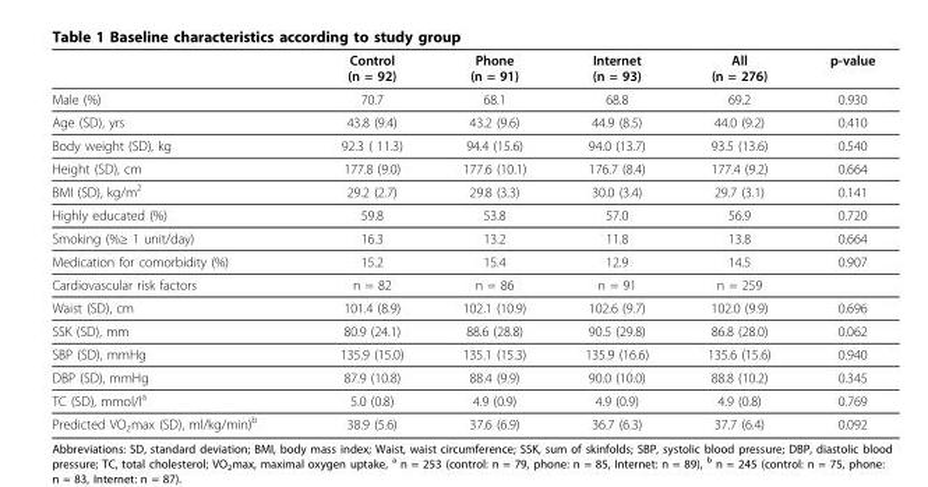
<table><thead><tr><td></td><td>Control (n = 92)</td><td>Phone (n = 91)</td><td>Internet (n = 93)</td><td>All (n = 276)</td><td>p-value</td></tr></thead><tbody><tr><td>Male (%)</td><td>70.7</td><td>68.1</td><td>68.8</td><td>69.2</td><td>0.930</td></tr><tr><td>Age (SD), yrs</td><td>43.8 (9.4)</td><td>43.2 (9.6)</td><td>44.9 (8.5)</td><td>44.0 (9.2)</td><td>0.410</td></tr><tr><td>Body weight (SD), kg</td><td>92.3 ( 11.3)</td><td>94.4 (15.6)</td><td>94.0 (13.7)</td><td>93.5 (13.6)</td><td>0.540</td></tr><tr><td>Height (SD), cm</td><td>177.8 (9.0)</td><td>177.6 (10.1)</td><td>176.7 (8.4)</td><td>177.4 (9.2)</td><td>0.664</td></tr><tr><td>BMI (SD), kg/m<sup>2</sup></td><td>29.2 (2.7)</td><td>29.8 (3.3)</td><td>30.0 (3.4)</td><td>29.7 (3.1)</td><td>0.141</td></tr><tr><td>Highly educated (%)</td><td>59.8</td><td>53.8</td><td>57.0</td><td>56.9</td><td>0.720</td></tr><tr><td>Smoking (%≥ 1 unit/day)</td><td>16.3</td><td>13.2</td><td>11.8</td><td>13.8</td><td>0.664</td></tr><tr><td>Medication for comorbidity (%)</td><td>15.2</td><td>15.4</td><td>12.9</td><td>14.5</td><td>0.907</td></tr><tr><td>Cardiovascular risk factors</td><td>n = 82</td><td>n = 86</td><td>n = 91</td><td>n = 259</td><td></td></tr><tr><td>Waist (SD), cm</td><td>101.4 (8.9)</td><td>102.1 (10.9)</td><td>102.6 (9.7)</td><td>102.0 (9.9)</td><td>0.696</td></tr><tr><td>SSK (SD), mm</td><td>80.9 (24.1)</td><td>88.6 (28.8)</td><td>90.5 (29.8)</td><td>86.8 (28.0)</td><td>0.062</td></tr><tr><td>SBP (SD), mmHg</td><td>135.9 (15.0)</td><td>135.1 (15.3)</td><td>135.9 (16.6)</td><td>135.6 (15.6)</td><td>0.940</td></tr><tr><td>DBP (SD), mmHg</td><td>87.9 (10.8)</td><td>88.4 (9.9)</td><td>90.0 (10.0)</td><td>88.8 (10.2)</td><td>0.345</td></tr><tr><td>TC (SD), mmol/l<sup>a</sup></td><td>5.0 (0.8)</td><td>4.9 (0.9)</td><td>4.9 (0.9)</td><td>4.9 (0.8)</td><td>0.769</td></tr><tr><td>Predicted VO<sub>2</sub>max (SD), ml/kg/min)<sup>b</sup></td><td>38.9 (5.6)</td><td>37.6 (6.9)</td><td>36.7 (6.3)</td><td>37.7 (6.4)</td><td>0.092</td></tr></tbody></table>